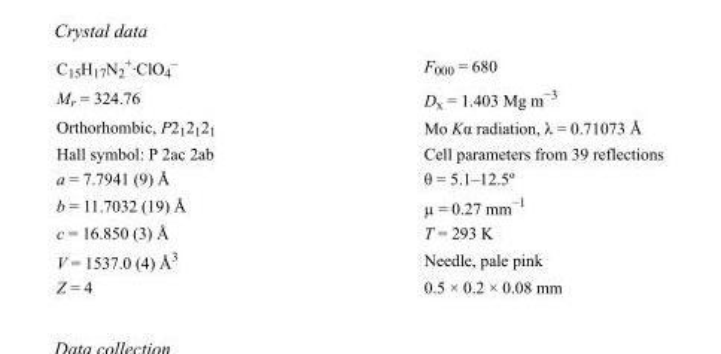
<table><tbody><tr><td>C<sub>15</sub>H<sub>17</sub>N<sub>2</sub> <sup>+</sup>·ClO<sub>4</sub> <sup>–</sup></td><td>F000 = 680</td></tr><tr><td>M<sub>r</sub> = 324.76</td><td>D<sub>x</sub> = 1.403 Mg m<sup>−3</sup></td></tr><tr><td>Orthorhombic, P2<sub>1</sub>2<sub>1</sub>2<sub>1</sub></td><td>Mo Kα radiation, λ = 0.71073 Å</td></tr><tr><td>Hall symbol: P 2ac 2ab</td><td>Cell parameters from 39 reflections</td></tr><tr><td>a = 7.7941 (9) Å</td><td>θ = 5.1–12.5º</td></tr><tr><td>b = 11.7032 (19) Å</td><td>µ = 0.27 mm<sup>−1</sup></td></tr><tr><td>c = 16.850 (3) Å</td><td>T = 293 K</td></tr><tr><td>V = 1537.0 (4) Å<sup>3</sup></td><td>Needle, pale pink</td></tr><tr><td>Z = 4</td><td>0.5 × 0.2 × 0.08 mm</td></tr></tbody></table>